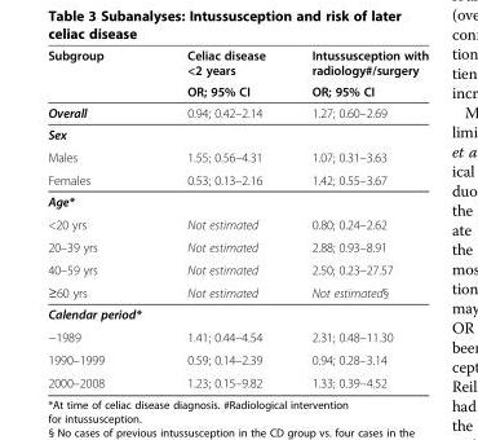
<table><thead><tr><td rowspan="2">Subgroup</td><td rowspan="2">Celiac disease &lt;2 years OR; 95% CI</td><td rowspan="2">Intussusception with radiology#/surgery OR; 95% CI</td></tr><tr></tr></thead><tbody><tr><td>Overall</td><td>0.94; 0.42–2.14</td><td>1.27; 0.60–2.69</td></tr><tr><td colspan="3">Sex</td></tr><tr><td>Males</td><td>1.55; 0.56–4.31</td><td>1.07; 0.31–3.63</td></tr><tr><td>Females</td><td>0.53; 0.13–2.16</td><td>1.42; 0.55–3.67</td></tr><tr><td colspan="3">Age*</td></tr><tr><td>&lt;20 yrs</td><td>Not estimated</td><td>0.80; 0.24–2.62</td></tr><tr><td>20–39 yrs</td><td>Not estimated</td><td>2.88; 0.93–8.91</td></tr><tr><td>40–59 yrs</td><td>Not estimated</td><td>2.50; 0.23–27.57</td></tr><tr><td>≥60 yrs</td><td>Not estimated</td><td>Not estimated§</td></tr><tr><td colspan="3">Calendar period*</td></tr><tr><td>−1989</td><td>1.41; 0.44–4.54</td><td>2.31; 0.48–11.30</td></tr><tr><td>1990–1999</td><td>0.59; 0.14–2.39</td><td>0.94; 0.28–3.14</td></tr><tr><td>2000–2008</td><td>1.23; 0.15–9.82</td><td>1.33; 0.39–4.52</td></tr></tbody></table>